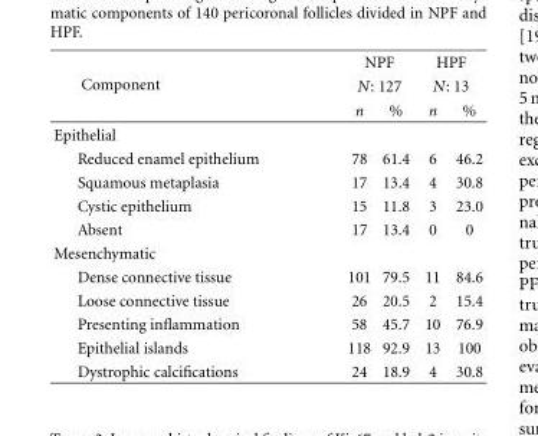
<table><thead><tr><td rowspan="3">Component</td><td rowspan="2" colspan="2">NPF N: 127</td><td rowspan="2" colspan="2">HPF N: 13</td></tr><tr></tr><tr><td>n</td><td>%</td><td>n</td><td>%</td></tr></thead><tbody><tr><td colspan="5">Epithelial</td></tr><tr><td>Reduced enamel epithelium</td><td>78</td><td>61.4</td><td>6</td><td>46.2</td></tr><tr><td>Squamous metaplasia</td><td>17</td><td>13.4</td><td>4</td><td>30.8</td></tr><tr><td>Cystic epithelium</td><td>15</td><td>11.8</td><td>3</td><td>23.0</td></tr><tr><td>Absent</td><td>17</td><td>13.4</td><td>0</td><td>0</td></tr><tr><td colspan="5">Mesenchymatic</td></tr><tr><td>Dense connective tissue</td><td>101</td><td>79.5</td><td>11</td><td>84.6</td></tr><tr><td>Loose connective tissue</td><td>26</td><td>20.5</td><td>2</td><td>15.4</td></tr><tr><td>Presenting inflammation</td><td>58</td><td>45.7</td><td>10</td><td>76.9</td></tr><tr><td>Epithelial islands</td><td>118</td><td>92.9</td><td>13</td><td>100</td></tr><tr><td>Dystrophic calcifications</td><td>24</td><td>18.9</td><td>4</td><td>30.8</td></tr></tbody></table>